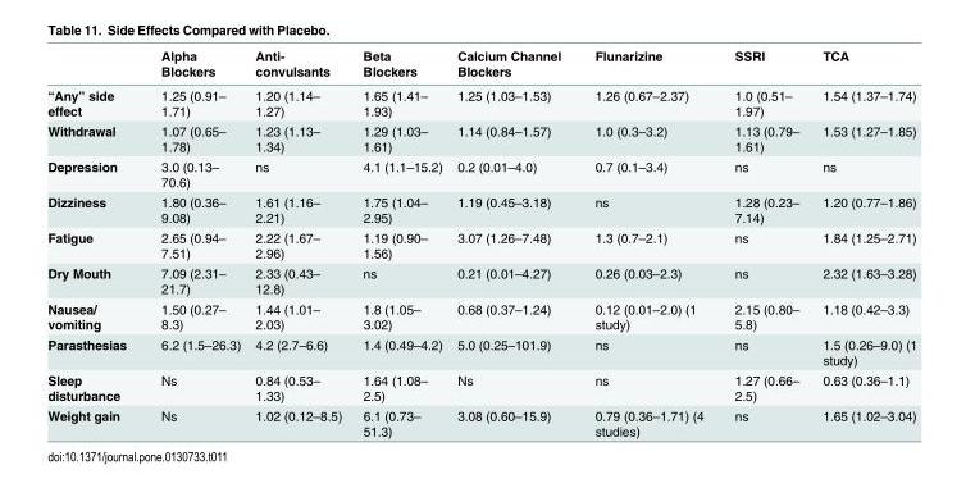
<table><thead><tr><td></td><td>Alpha Blockers</td><td>Anti- convulsants</td><td>Beta Blockers</td><td>Calcium Channel Blockers</td><td>Flunarizine</td><td>SSRI</td><td>TCA</td></tr></thead><tbody><tr><td>“Any” side effect</td><td>1.25 (0.91– 1.71)</td><td>1.20 (1.14– 1.27)</td><td>1.65 (1.41– 1.93)</td><td>1.25 (1.03–1.53)</td><td>1.26 (0.67–2.37)</td><td>1.0 (0.51– 1.97)</td><td>1.54 (1.37–1.74)</td></tr><tr><td>Withdrawal</td><td>1.07 (0.65– 1.78)</td><td>1.23 (1.13– 1.34)</td><td>1.29 (1.03– 1.61)</td><td>1.14 (0.84–1.57)</td><td>1.0 (0.3–3.2)</td><td>1.13 (0.79– 1.61)</td><td>1.53 (1.27–1.85)</td></tr><tr><td>Depression</td><td>3.0 (0.13– 70.6)</td><td>ns</td><td>4.1 (1.1–15.2)</td><td>0.2 (0.01–4.0)</td><td>0.7 (0.1–3.4)</td><td>ns</td><td>ns</td></tr><tr><td>Dizziness</td><td>1.80 (0.36– 9.08)</td><td>1.61 (1.16– 2.21)</td><td>1.75 (1.04– 2.95)</td><td>1.19 (0.45–3.18)</td><td>ns</td><td>1.28 (0.23– 7.14)</td><td>1.20 (0.77–1.86)</td></tr><tr><td>Fatigue</td><td>2.65 (0.94– 7.51)</td><td>2.22 (1.67– 2.96)</td><td>1.19 (0.90– 1.56)</td><td>3.07 (1.26–7.48)</td><td>1.3 (0.7–2.1)</td><td>ns</td><td>1.84 (1.25–2.71)</td></tr><tr><td>Dry Mouth</td><td>7.09 (2.31– 21.7)</td><td>2.33 (0.43– 12.8)</td><td>ns</td><td>0.21 (0.01–4.27)</td><td>0.26 (0.03–2.3)</td><td>ns</td><td>2.32 (1.63–3.28)</td></tr><tr><td>Nausea/ vomiting</td><td>1.50 (0.27– 8.3)</td><td>1.44 (1.01– 2.03)</td><td>1.8 (1.05– 3.02)</td><td>0.68 (0.37–1.24)</td><td>0.12 (0.01–2.0) (1 study)</td><td>2.15 (0.80– 5.8)</td><td>1.18 (0.42–3.3)</td></tr><tr><td>Parasthesias</td><td>6.2 (1.5–26.3)</td><td>4.2 (2.7–6.6)</td><td>1.4 (0.49–4.2)</td><td>5.0 (0.25–101.9)</td><td>ns</td><td>ns</td><td>1.5 (0.26–9.0) (1 study)</td></tr><tr><td>Sleep disturbance</td><td>Ns</td><td>0.84 (0.53– 1.33)</td><td>1.64 (1.08– 2.5)</td><td>Ns</td><td>ns</td><td>1.27 (0.66– 2.5)</td><td>0.63 (0.36–1.1)</td></tr><tr><td>Weight gain</td><td>Ns</td><td>1.02 (0.12–8.5)</td><td>6.1 (0.73– 51.3)</td><td>3.08 (0.60–15.9)</td><td>0.79 (0.36–1.71) (4 studies)</td><td>ns</td><td>1.65 (1.02–3.04)</td></tr></tbody></table>